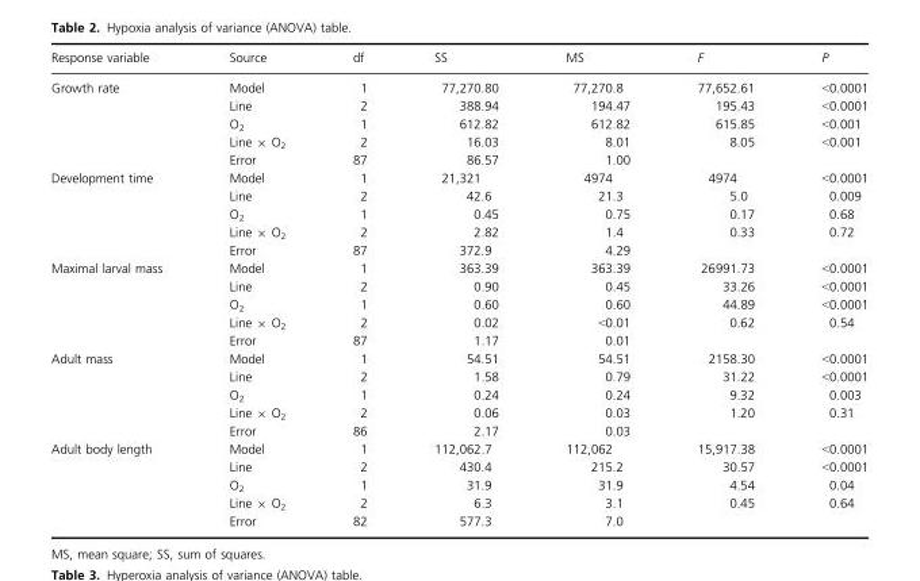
<table><thead><tr><td>Response variable</td><td>Source</td><td>df</td><td>SS</td><td>MS</td><td>F</td><td>P</td></tr></thead><tbody><tr><td rowspan="5">Growth rate</td><td>Model</td><td>1</td><td>77,270.80</td><td>77,270.8</td><td>77,652.61</td><td>&lt;0.0001</td></tr><tr><td>Line</td><td>2</td><td>388.94</td><td>194.47</td><td>195.43</td><td>&lt;0.0001</td></tr><tr><td>O<sub>2</sub></td><td>1</td><td>612.82</td><td>612.82</td><td>615.85</td><td>&lt;0.001</td></tr><tr><td>Line × O<sub>2</sub></td><td>2</td><td>16.03</td><td>8.01</td><td>8.05</td><td>&lt;0.001</td></tr><tr><td>Error</td><td>87</td><td>86.57</td><td>1.00</td><td></td><td></td></tr><tr><td rowspan="5">Development time</td><td>Model</td><td>1</td><td>21,321</td><td>4974</td><td>4974</td><td>&lt;0.0001</td></tr><tr><td>Line</td><td>2</td><td>42.6</td><td>21.3</td><td>5.0</td><td>0.009</td></tr><tr><td>O<sub>2</sub></td><td>1</td><td>0.45</td><td>0.75</td><td>0.17</td><td>0.68</td></tr><tr><td>Line × O<sub>2</sub></td><td>2</td><td>2.82</td><td>1.4</td><td>0.33</td><td>0.72</td></tr><tr><td>Error</td><td>87</td><td>372.9</td><td>4.29</td><td></td><td></td></tr><tr><td rowspan="5">Maximal larval mass</td><td>Model</td><td>1</td><td>363.39</td><td>363.39</td><td>26991.73</td><td>&lt;0.0001</td></tr><tr><td>Line</td><td>2</td><td>0.90</td><td>0.45</td><td>33.26</td><td>&lt;0.0001</td></tr><tr><td>O<sub>2</sub></td><td>1</td><td>0.60</td><td>0.60</td><td>44.89</td><td>&lt;0.0001</td></tr><tr><td>Line × O<sub>2</sub></td><td>2</td><td>0.02</td><td>&lt;0.01</td><td>0.62</td><td>0.54</td></tr><tr><td>Error</td><td>87</td><td>1.17</td><td>0.01</td><td></td><td></td></tr><tr><td rowspan="5">Adult mass</td><td>Model</td><td>1</td><td>54.51</td><td>54.51</td><td>2158.30</td><td>&lt;0.0001</td></tr><tr><td>Line</td><td>2</td><td>1.58</td><td>0.79</td><td>31.22</td><td>&lt;0.0001</td></tr><tr><td>O<sub>2</sub></td><td>1</td><td>0.24</td><td>0.24</td><td>9.32</td><td>0.003</td></tr><tr><td>Line × O<sub>2</sub></td><td>2</td><td>0.06</td><td>0.03</td><td>1.20</td><td>0.31</td></tr><tr><td>Error</td><td>86</td><td>2.17</td><td>0.03</td><td></td><td></td></tr><tr><td rowspan="5">Adult body length</td><td>Model</td><td>1</td><td>112,062.7</td><td>112,062</td><td>15,917.38</td><td>&lt;0.0001</td></tr><tr><td>Line</td><td>2</td><td>430.4</td><td>215.2</td><td>30.57</td><td>&lt;0.0001</td></tr><tr><td>O<sub>2</sub></td><td>1</td><td>31.9</td><td>31.9</td><td>4.54</td><td>0.04</td></tr><tr><td>Line × O<sub>2</sub></td><td>2</td><td>6.3</td><td>3.1</td><td>0.45</td><td>0.64</td></tr><tr><td>Error</td><td>82</td><td>577.3</td><td>7.0</td><td></td><td></td></tr></tbody></table>